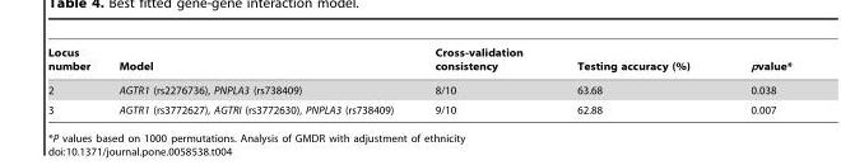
<table><thead><tr><td>Locus number</td><td>Model</td><td>Cross-validation consistency</td><td>Testing accuracy (%)</td><td>pvalue*</td></tr></thead><tbody><tr><td>2</td><td>AGTR1 (rs2276736), PNPLA3 (rs738409)</td><td>8/10</td><td>63.68</td><td>0.038</td></tr><tr><td>3</td><td>AGTR1 (rs3772627), AGTRI (rs3772630), PNPLA3 (rs738409)</td><td>9/10</td><td>62.88</td><td>0.007</td></tr></tbody></table>